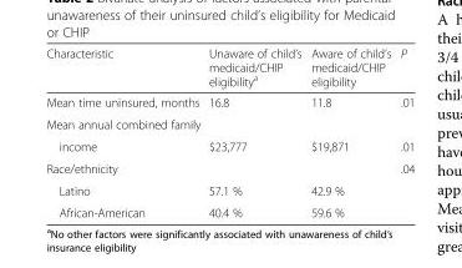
<table><thead><tr><td>Characteristic</td><td>Unaware of child’s medicaid/CHIP eligibility<sup>a</sup></td><td>Aware of child’s medicaid/CHIP eligibility</td><td>P</td></tr></thead><tbody><tr><td>Mean time uninsured, months</td><td>16.8</td><td>11.8</td><td>.01</td></tr><tr><td colspan="4">Mean annual combined family</td></tr><tr><td>income</td><td>$23,777</td><td>$19,871</td><td>.01</td></tr><tr><td>Race/ethnicity</td><td></td><td></td><td>.04</td></tr><tr><td>Latino</td><td>57.1 %</td><td>42.9 %</td><td></td></tr><tr><td>African-American</td><td>40.4 %</td><td>59.6 %</td><td></td></tr></tbody></table>